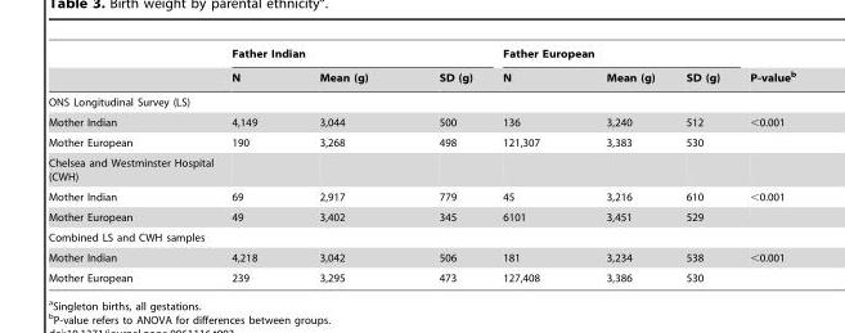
<table><thead><tr><td rowspan="2"></td><td colspan="3">Father Indian</td><td colspan="3">Father European</td><td rowspan="2">P-value<sup>b</sup></td></tr><tr><td>N</td><td>Mean (g)</td><td>SD (g)</td><td>N</td><td>Mean (g)</td><td>SD (g)</td></tr></thead><tbody><tr><td colspan="8">ONS Longitudinal Survey (LS)</td></tr><tr><td>Mother Indian</td><td>4,149</td><td>3,044</td><td>500</td><td>136</td><td>3,240</td><td>512</td><td>&lt;0.001</td></tr><tr><td>Mother European</td><td>190</td><td>3,268</td><td>498</td><td>121,307</td><td>3,383</td><td>530</td><td></td></tr><tr><td colspan="8">Chelsea and Westminster Hospital (CWH)</td></tr><tr><td>Mother Indian</td><td>69</td><td>2,917</td><td>779</td><td>45</td><td>3,216</td><td>610</td><td>&lt;0.001</td></tr><tr><td>Mother European</td><td>49</td><td>3,402</td><td>345</td><td>6101</td><td>3,451</td><td>529</td><td></td></tr><tr><td colspan="8">Combined LS and CWH samples</td></tr><tr><td>Mother Indian</td><td>4,218</td><td>3,042</td><td>506</td><td>181</td><td>3,234</td><td>538</td><td>&lt;0.001</td></tr><tr><td>Mother European</td><td>239</td><td>3,295</td><td>473</td><td>127,408</td><td>3,386</td><td>530</td><td></td></tr></tbody></table>